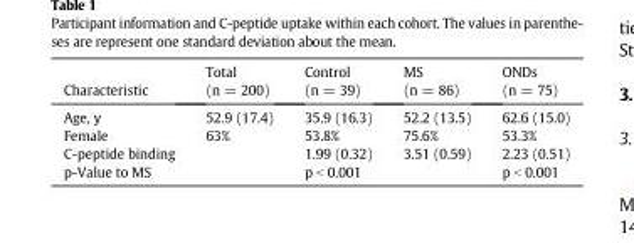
<table><thead><tr><td>Characteristic</td><td>Total (n = 200)</td><td>Control (n = 39)</td><td>MS (n = 86)</td><td>ONDs (n = 75)</td></tr></thead><tbody><tr><td>Age, y</td><td>52.9 (17.4)</td><td>35.9 (16.3)</td><td>52.2 (13.5)</td><td>62.6 (15.0)</td></tr><tr><td>Female</td><td>63%</td><td>53.8%</td><td>75.6%</td><td>53.3%</td></tr><tr><td>C-peptide binding</td><td></td><td>1.99 (0.32)</td><td>3.51 (0.59)</td><td>2.23 (0.51)</td></tr><tr><td>p-Value to MS</td><td></td><td>p &lt; 0.001</td><td></td><td>p &lt; 0.001</td></tr></tbody></table>